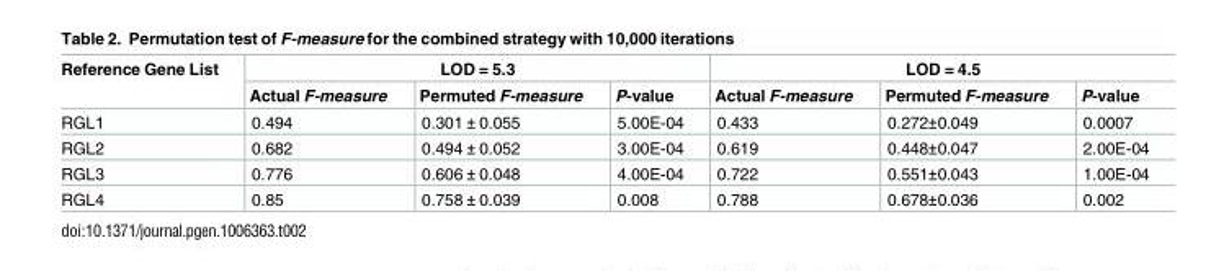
<table><thead><tr><td rowspan="2">Reference Gene List</td><td colspan="3">LOD = 5.3</td><td colspan="3">LOD = 4.5</td></tr><tr><td>Actual F-measure</td><td>Permuted F-measure</td><td>P-value</td><td>Actual F-measure</td><td>Permuted F-measure</td><td>P-value</td></tr></thead><tbody><tr><td>RGL1</td><td>0.494</td><td>0.301 ± 0.055</td><td>5.00E-04</td><td>0.433</td><td>0.272±0.049</td><td>0.0007</td></tr><tr><td>RGL2</td><td>0.682</td><td>0.494 ± 0.052</td><td>3.00E-04</td><td>0.619</td><td>0.448±0.047</td><td>2.00E-04</td></tr><tr><td>RGL3</td><td>0.776</td><td>0.606 ± 0.048</td><td>4.00E-04</td><td>0.722</td><td>0.551±0.043</td><td>1.00E-04</td></tr><tr><td>RGL4</td><td>0.85</td><td>0.758 ± 0.039</td><td>0.008</td><td>0.788</td><td>0.678±0.036</td><td>0.002</td></tr></tbody></table>